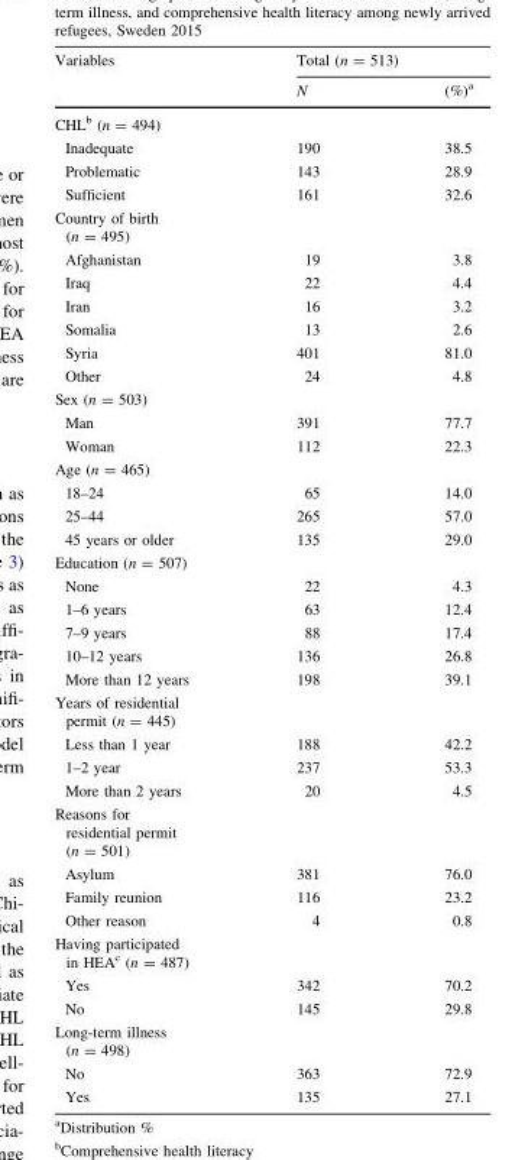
<table><thead><tr><td rowspan="2">Variables</td><td colspan="2">Total (n = 513)</td></tr><tr><td>N</td><td>(%)<sup>a</sup></td></tr></thead><tbody><tr><td colspan="3">CHL<sup>b</sup> (n = 494)</td></tr><tr><td>Inadequate</td><td>190</td><td>38.5</td></tr><tr><td>Problematic</td><td>143</td><td>28.9</td></tr><tr><td>Sufficient</td><td>161</td><td>32.6</td></tr><tr><td colspan="3">Country of birth (n = 495)</td></tr><tr><td>Afghanistan</td><td>19</td><td>3.8</td></tr><tr><td>Iraq</td><td>22</td><td>4.4</td></tr><tr><td>Iran</td><td>16</td><td>3.2</td></tr><tr><td>Somalia</td><td>13</td><td>2.6</td></tr><tr><td>Syria</td><td>401</td><td>81.0</td></tr><tr><td>Other</td><td>24</td><td>4.8</td></tr><tr><td colspan="3">Sex (n = 503)</td></tr><tr><td>Man</td><td>391</td><td>77.7</td></tr><tr><td>Woman</td><td>112</td><td>22.3</td></tr><tr><td colspan="3">Age (n = 465)</td></tr><tr><td>18–24</td><td>65</td><td>14.0</td></tr><tr><td>25–44</td><td>265</td><td>57.0</td></tr><tr><td>45 years or older</td><td>135</td><td>29.0</td></tr><tr><td colspan="3">Education (n = 507)</td></tr><tr><td>None</td><td>22</td><td>4.3</td></tr><tr><td>1–6 years</td><td>63</td><td>12.4</td></tr><tr><td>7–9 years</td><td>88</td><td>17.4</td></tr><tr><td>10–12 years</td><td>136</td><td>26.8</td></tr><tr><td>More than 12 years</td><td>198</td><td>39.1</td></tr><tr><td colspan="3">Years of residential permit (n = 445)</td></tr><tr><td>Less than 1 year</td><td>188</td><td>42.2</td></tr><tr><td>1–2 year</td><td>237</td><td>53.3</td></tr><tr><td>More than 2 years</td><td>20</td><td>4.5</td></tr><tr><td colspan="3">Reasons for residential permit (n = 501)</td></tr><tr><td>Asylum</td><td>381</td><td>76.0</td></tr><tr><td>Family reunion</td><td>116</td><td>23.2</td></tr><tr><td>Other reason</td><td>4</td><td>0.8</td></tr><tr><td colspan="3">Having participated in HEA<sup>c</sup> (n = 487)</td></tr><tr><td>Yes</td><td>342</td><td>70.2</td></tr><tr><td>No</td><td>145</td><td>29.8</td></tr><tr><td colspan="3">Long-term illness (n = 498)</td></tr><tr><td>No</td><td>363</td><td>72.9</td></tr><tr><td>Yes</td><td>135</td><td>27.1</td></tr></tbody></table>